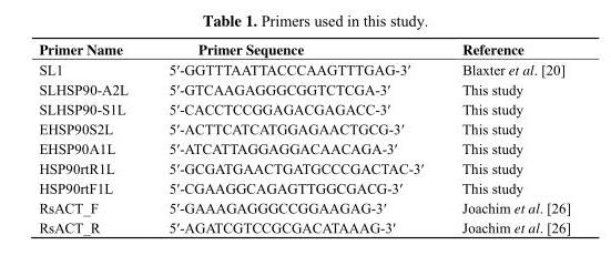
<table><thead><tr><td>Primer Name</td><td>Primer Sequence</td><td>Reference</td></tr></thead><tbody><tr><td>SL1</td><td>5′-GGTTTAATTACCCAAGTTTGAG-3′</td><td>Blaxter et al. [20]</td></tr><tr><td>SLHSP90-A2L</td><td>5′-GTCAAGAGGGCGGTCTCGA-3′</td><td>This study</td></tr><tr><td>SLHSP90-S1L</td><td>5′-CACCTCCGGAGACGAGACC-3′</td><td>This study</td></tr><tr><td>EHSP90S2L</td><td>5′-ACTTCATCATGGAGAACTGCG-3′</td><td>This study</td></tr><tr><td>EHSP90A1L</td><td>5′-ATCATTAGGAGGACAACAGA-3′</td><td>This study</td></tr><tr><td>HSP90rtR1L</td><td>5′-GCGATGAACTGATGCCCGACTAC-3′</td><td>This study</td></tr><tr><td>HSP90rtF1L</td><td>5′-CGAAGGCAGAGTTGGCGACG-3′</td><td>This study</td></tr><tr><td>RsACT_F</td><td>5′-GAAAGAGGGCCGGAAGAG-3′</td><td>Joachim et al. [26]</td></tr><tr><td>RsACT_R</td><td>5′-AGATCGTCCGCGACATAAAG-3′</td><td>Joachim et al. [26]</td></tr></tbody></table>